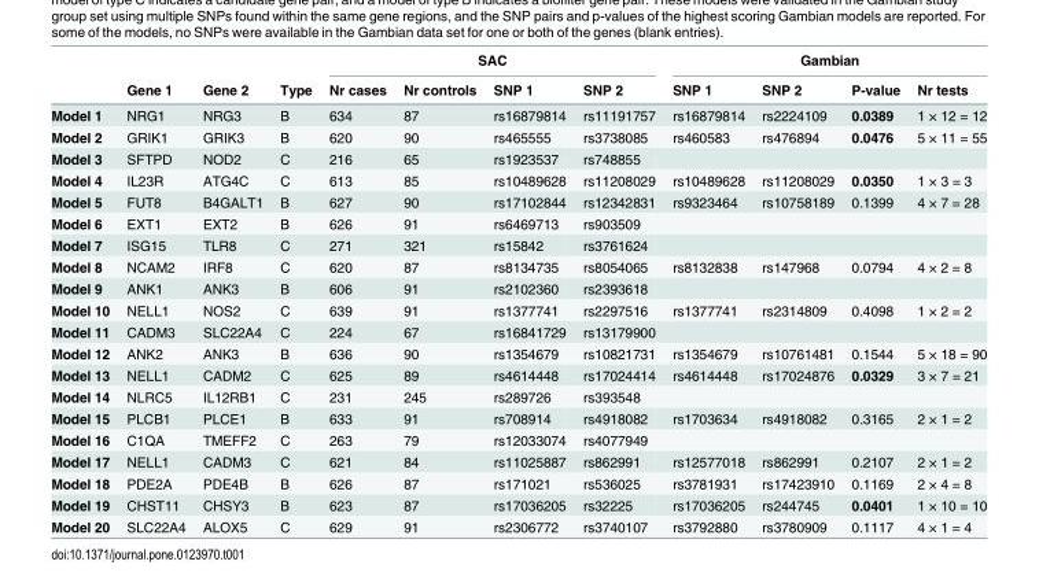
<table><thead><tr><td rowspan="2"></td><td rowspan="2">Gene 1</td><td rowspan="2">Gene 2</td><td rowspan="2">Type</td><td colspan="4">SAC</td><td colspan="4">Gambian</td></tr><tr><td>Nr cases</td><td>Nr controls</td><td>SNP 1</td><td>SNP 2</td><td>SNP 1</td><td>SNP 2</td><td>P-value</td><td>Nr tests</td></tr></thead><tbody><tr><td>Model 1</td><td>NRG1</td><td>NRG3</td><td>B</td><td>634</td><td>87</td><td>rs16879814</td><td>rs11191757</td><td>rs16879814</td><td>rs2224109</td><td>0.0389</td><td>1 × 12 = 12</td></tr><tr><td>Model 2</td><td>GRIK1</td><td>GRIK3</td><td>B</td><td>620</td><td>90</td><td>rs465555</td><td>rs3738085</td><td>rs460583</td><td>rs476894</td><td>0.0476</td><td>5 × 11 = 55</td></tr><tr><td>Model 3</td><td>SFTPD</td><td>NOD2</td><td>C</td><td>216</td><td>65</td><td>rs1923537</td><td>rs748855</td><td></td><td></td><td></td><td></td></tr><tr><td>Model 4</td><td>IL23R</td><td>ATG4C</td><td>C</td><td>613</td><td>85</td><td>rs10489628</td><td>rs11208029</td><td>rs10489628</td><td>rs11208029</td><td>0.0350</td><td>1 × 3 = 3</td></tr><tr><td>Model 5</td><td>FUT8</td><td>B4GALT1</td><td>B</td><td>627</td><td>90</td><td>rs17102844</td><td>rs12342831</td><td>rs9323464</td><td>rs10758189</td><td>0.1399</td><td>4 × 7 = 28</td></tr><tr><td>Model 6</td><td>EXT1</td><td>EXT2</td><td>B</td><td>626</td><td>91</td><td>rs6469713</td><td>rs903509</td><td></td><td></td><td></td><td></td></tr><tr><td>Model 7</td><td>ISG15</td><td>TLR8</td><td>C</td><td>271</td><td>321</td><td>rs15842</td><td>rs3761624</td><td></td><td></td><td></td><td></td></tr><tr><td>Model 8</td><td>NCAM2</td><td>IRF8</td><td>C</td><td>620</td><td>87</td><td>rs8134735</td><td>rs8054065</td><td>rs8132838</td><td>rs147968</td><td>0.0794</td><td>4 × 2 = 8</td></tr><tr><td>Model 9</td><td>ANK1</td><td>ANK3</td><td>B</td><td>606</td><td>91</td><td>rs2102360</td><td>rs2393618</td><td></td><td></td><td></td><td></td></tr><tr><td>Model 10</td><td>NELL1</td><td>NOS2</td><td>C</td><td>639</td><td>91</td><td>rs1377741</td><td>rs2297516</td><td>rs1377741</td><td>rs2314809</td><td>0.4098</td><td>1 × 2 = 2</td></tr><tr><td>Model 11</td><td>CADM3</td><td>SLC22A4</td><td>C</td><td>224</td><td>67</td><td>rs16841729</td><td>rs13179900</td><td></td><td></td><td></td><td></td></tr><tr><td>Model 12</td><td>ANK2</td><td>ANK3</td><td>B</td><td>636</td><td>90</td><td>rs1354679</td><td>rs10821731</td><td>rs1354679</td><td>rs10761481</td><td>0.1544</td><td>5 × 18 = 90</td></tr><tr><td>Model 13</td><td>NELL1</td><td>CADM2</td><td>C</td><td>625</td><td>89</td><td>rs4614448</td><td>rs17024414</td><td>rs4614448</td><td>rs17024876</td><td>0.0329</td><td>3 × 7 = 21</td></tr><tr><td>Model 14</td><td>NLRC5</td><td>IL12RB1</td><td>C</td><td>231</td><td>245</td><td>rs289726</td><td>rs393548</td><td></td><td></td><td></td><td></td></tr><tr><td>Model 15</td><td>PLCB1</td><td>PLCE1</td><td>B</td><td>633</td><td>91</td><td>rs708914</td><td>rs4918082</td><td>rs1703634</td><td>rs4918082</td><td>0.3165</td><td>2 × 1 = 2</td></tr><tr><td>Model 16</td><td>C1QA</td><td>TMEFF2</td><td>C</td><td>263</td><td>79</td><td>rs12033074</td><td>rs4077949</td><td></td><td></td><td></td><td></td></tr><tr><td>Model 17</td><td>NELL1</td><td>CADM3</td><td>C</td><td>621</td><td>84</td><td>rs11025887</td><td>rs862991</td><td>rs12577018</td><td>rs862991</td><td>0.2107</td><td>2 × 1 = 2</td></tr><tr><td>Model 18</td><td>PDE2A</td><td>PDE4B</td><td>B</td><td>626</td><td>87</td><td>rs171021</td><td>rs536025</td><td>rs3781931</td><td>rs17423910</td><td>0.1169</td><td>2 × 4 = 8</td></tr><tr><td>Model 19</td><td>CHST11</td><td>CHSY3</td><td>B</td><td>623</td><td>87</td><td>rs17036205</td><td>rs32225</td><td>rs17036205</td><td>rs244745</td><td>0.0401</td><td>1 × 10 = 10</td></tr><tr><td>Model 20</td><td>SLC22A4</td><td>ALOX5</td><td>C</td><td>629</td><td>91</td><td>rs2306772</td><td>rs3740107</td><td>rs3792880</td><td>rs3780909</td><td>0.1117</td><td>4 × 1 = 4</td></tr></tbody></table>